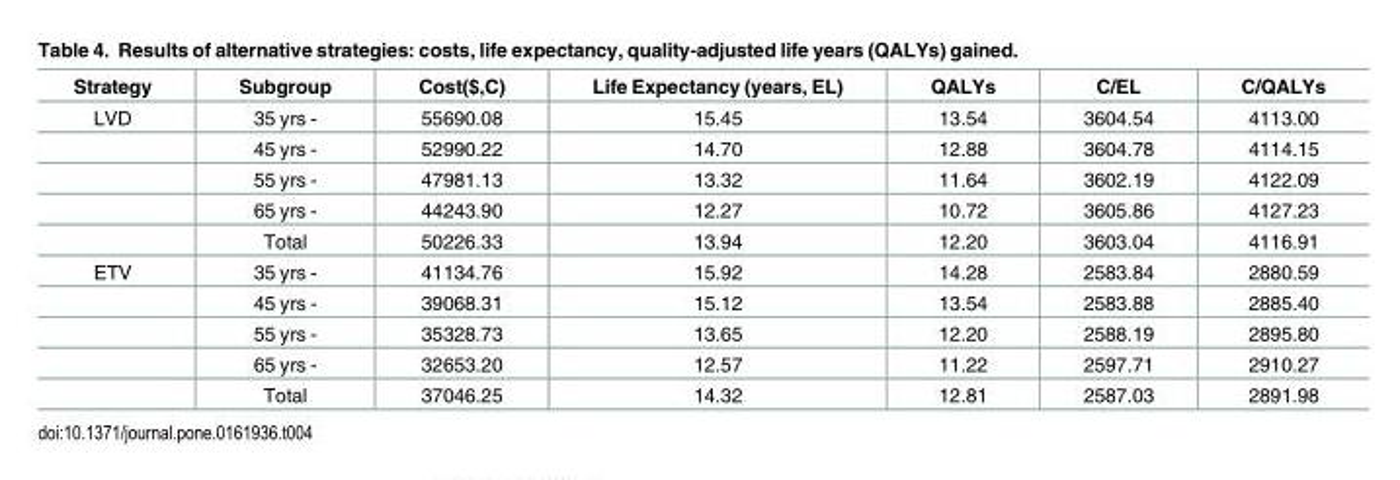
<table><thead><tr><td>Strategy</td><td>Subgroup</td><td>Cost($,C)</td><td>Life Expectancy (years, EL)</td><td>QALYs</td><td>C/EL</td><td>C/QALYs</td></tr></thead><tbody><tr><td rowspan="5">LVD</td><td>35 yrs -</td><td>55690.08</td><td>15.45</td><td>13.54</td><td>3604.54</td><td>4113.00</td></tr><tr><td>45 yrs -</td><td>52990.22</td><td>14.70</td><td>12.88</td><td>3604.78</td><td>4114.15</td></tr><tr><td>55 yrs -</td><td>47981.13</td><td>13.32</td><td>11.64</td><td>3602.19</td><td>4122.09</td></tr><tr><td>65 yrs -</td><td>44243.90</td><td>12.27</td><td>10.72</td><td>3605.86</td><td>4127.23</td></tr><tr><td>Total</td><td>50226.33</td><td>13.94</td><td>12.20</td><td>3603.04</td><td>4116.91</td></tr><tr><td rowspan="5">ETV</td><td>35 yrs -</td><td>41134.76</td><td>15.92</td><td>14.28</td><td>2583.84</td><td>2880.59</td></tr><tr><td>45 yrs -</td><td>39068.31</td><td>15.12</td><td>13.54</td><td>2583.88</td><td>2885.40</td></tr><tr><td>55 yrs -</td><td>35328.73</td><td>13.65</td><td>12.20</td><td>2588.19</td><td>2895.80</td></tr><tr><td>65 yrs -</td><td>32653.20</td><td>12.57</td><td>11.22</td><td>2597.71</td><td>2910.27</td></tr><tr><td>Total</td><td>37046.25</td><td>14.32</td><td>12.81</td><td>2587.03</td><td>2891.98</td></tr></tbody></table>